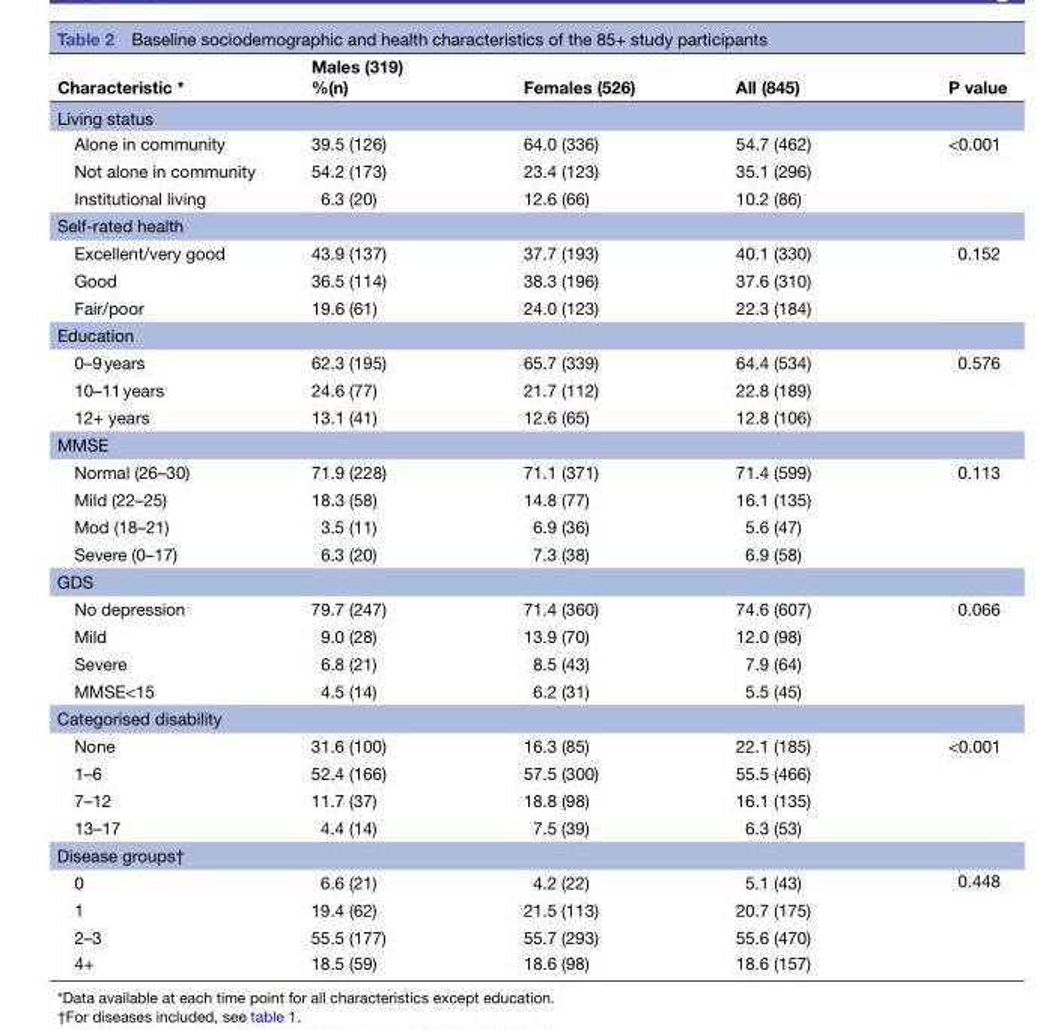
<table><thead><tr><td>Characteristic *</td><td>Males (319) %(n)</td><td>Females (526)</td><td>All (845)</td><td>P value</td></tr></thead><tbody><tr><td colspan="5">Living status</td></tr><tr><td>Alone in community</td><td>39.5 (126)</td><td>64.0 (336)</td><td>54.7 (462)</td><td rowspan="3">&lt;0.001</td></tr><tr><td>Not alone in community</td><td>54.2 (173)</td><td>23.4 (123)</td><td>35.1 (296)</td></tr><tr><td>Institutional living</td><td>6.3 (20)</td><td>12.6 (66)</td><td>10.2 (86)</td></tr><tr><td colspan="5">Self-rated health</td></tr><tr><td>Excellent/very good</td><td>43.9 (137)</td><td>37.7 (193)</td><td>40.1 (330)</td><td rowspan="3">0.152</td></tr><tr><td>Good</td><td>36.5 (114)</td><td>38.3 (196)</td><td>37.6 (310)</td></tr><tr><td>Fair/poor</td><td>19.6 (61)</td><td>24.0 (123)</td><td>22.3 (184)</td></tr><tr><td colspan="5">Education</td></tr><tr><td>0–9 years</td><td>62.3 (195)</td><td>65.7 (339)</td><td>64.4 (534)</td><td rowspan="3">0.576</td></tr><tr><td>10–11 years</td><td>24.6 (77)</td><td>21.7 (112)</td><td>22.8 (189)</td></tr><tr><td>12+ years</td><td>13.1 (41)</td><td>12.6 (65)</td><td>12.8 (106)</td></tr><tr><td colspan="5">MMSE</td></tr><tr><td>Normal (26–30)</td><td>71.9 (228)</td><td>71.1 (371)</td><td>71.4 (599)</td><td rowspan="4">0.113</td></tr><tr><td>Mild (22–25)</td><td>18.3 (58)</td><td>14.8 (77)</td><td>16.1 (135)</td></tr><tr><td>Mod (18–21)</td><td>3.5 (11)</td><td>6.9 (36)</td><td>5.6 (47)</td></tr><tr><td>Severe (0–17)</td><td>6.3 (20)</td><td>7.3 (38)</td><td>6.9 (58)</td></tr><tr><td colspan="5">GDS</td></tr><tr><td>No depression</td><td>79.7 (247)</td><td>71.4 (360)</td><td>74.6 (607)</td><td rowspan="4">0.066</td></tr><tr><td>Mild</td><td>9.0 (28)</td><td>13.9 (70)</td><td>12.0 (98)</td></tr><tr><td>Severe</td><td>6.8 (21)</td><td>8.5 (43)</td><td>7.9 (64)</td></tr><tr><td>MMSE&lt;15</td><td>4.5 (14)</td><td>6.2 (31)</td><td>5.5 (45)</td></tr><tr><td colspan="5">Categorised disability</td></tr><tr><td>None</td><td>31.6 (100)</td><td>16.3 (85)</td><td>22.1 (185)</td><td rowspan="4">&lt;0.001</td></tr><tr><td>1–6</td><td>52.4 (166)</td><td>57.5 (300)</td><td>55.5 (466)</td></tr><tr><td>7–12</td><td>11.7 (37)</td><td>18.8 (98)</td><td>16.1 (135)</td></tr><tr><td>13–17</td><td>4.4 (14)</td><td>7.5 (39)</td><td>6.3 (53)</td></tr><tr><td colspan="5">Disease groups†</td></tr><tr><td>0</td><td>6.6 (21)</td><td>4.2 (22)</td><td>5.1 (43)</td><td rowspan="4">0.448</td></tr><tr><td>1</td><td>19.4 (62)</td><td>21.5 (113)</td><td>20.7 (175)</td></tr><tr><td>2–3</td><td>55.5 (177)</td><td>55.7 (293)</td><td>55.6 (470)</td></tr><tr><td>4+</td><td>18.5 (59)</td><td>18.6 (98)</td><td>18.6 (157)</td></tr></tbody></table>